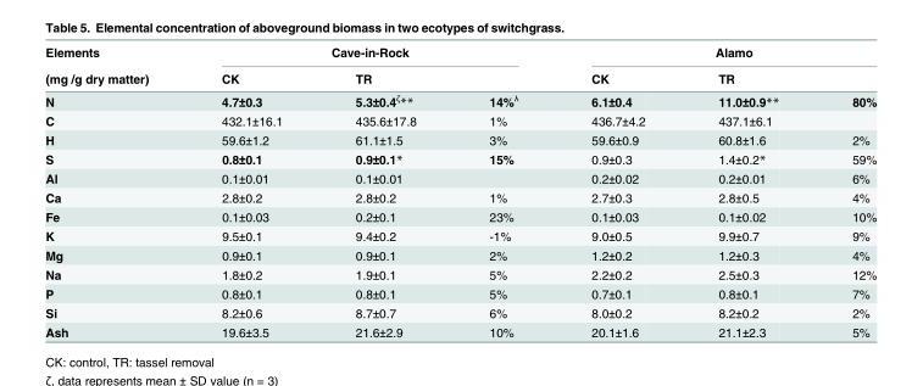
<table><thead><tr><td rowspan="2">Elements (mg /g dry matter)</td><td colspan="3">Cave-in-Rock</td><td colspan="3">Alamo</td></tr><tr><td>CK</td><td>TR</td><td></td><td>CK</td><td>TR</td><td></td></tr></thead><tbody><tr><td>N</td><td>4.7±0.3</td><td>5.3±0.4<sup>ζ</sup>**</td><td>14%<sup>λ</sup></td><td>6.1±0.4</td><td>11.0±0.9**</td><td>80%</td></tr><tr><td>C</td><td>432.1±16.1</td><td>435.6±17.8</td><td>1%</td><td>436.7±4.2</td><td>437.1±6.1</td><td></td></tr><tr><td>H</td><td>59.6±1.2</td><td>61.1±1.5</td><td>3%</td><td>59.6±0.9</td><td>60.8±1.6</td><td>2%</td></tr><tr><td>S</td><td>0.8±0.1</td><td>0.9±0.1*</td><td>15%</td><td>0.9±0.3</td><td>1.4±0.2*</td><td>59%</td></tr><tr><td>Al</td><td>0.1±0.01</td><td>0.1±0.01</td><td></td><td>0.2±0.02</td><td>0.2±0.01</td><td>6%</td></tr><tr><td>Ca</td><td>2.8±0.2</td><td>2.8±0.2</td><td>1%</td><td>2.7±0.3</td><td>2.8±0.5</td><td>4%</td></tr><tr><td>Fe</td><td>0.1±0.03</td><td>0.2±0.1</td><td>23%</td><td>0.1±0.03</td><td>0.1±0.02</td><td>10%</td></tr><tr><td>K</td><td>9.5±0.1</td><td>9.4±0.2</td><td>-1%</td><td>9.0±0.5</td><td>9.9±0.7</td><td>9%</td></tr><tr><td>Mg</td><td>0.9±0.1</td><td>0.9±0.1</td><td>2%</td><td>1.2±0.2</td><td>1.2±0.3</td><td>4%</td></tr><tr><td>Na</td><td>1.8±0.2</td><td>1.9±0.1</td><td>5%</td><td>2.2±0.2</td><td>2.5±0.3</td><td>12%</td></tr><tr><td>P</td><td>0.8±0.1</td><td>0.8±0.1</td><td>5%</td><td>0.7±0.1</td><td>0.8±0.1</td><td>7%</td></tr><tr><td>Si</td><td>8.2±0.6</td><td>8.7±0.7</td><td>6%</td><td>8.0±0.2</td><td>8.2±0.2</td><td>2%</td></tr><tr><td>Ash</td><td>19.6±3.5</td><td>21.6±2.9</td><td>10%</td><td>20.1±1.6</td><td>21.1±2.3</td><td>5%</td></tr></tbody></table>